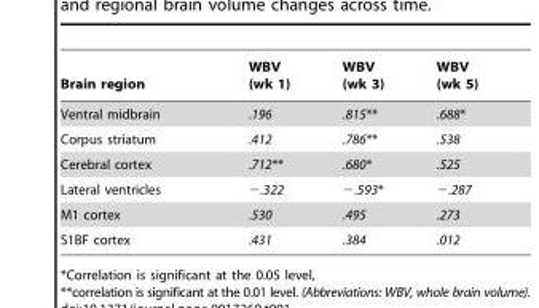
<table><thead><tr><td>Brain region</td><td>WBV (wk 1)</td><td>WBV (wk 3)</td><td>WBV (wk 5)</td></tr></thead><tbody><tr><td>Ventral midbrain</td><td>.196</td><td>.815**</td><td>.688*</td></tr><tr><td>Corpus striatum</td><td>.412</td><td>.786**</td><td>.538</td></tr><tr><td>Cerebral cortex</td><td>.712**</td><td>.680*</td><td>.525</td></tr><tr><td>Lateral ventricles</td><td>−.322</td><td>−.593*</td><td>−.287</td></tr><tr><td>M1 cortex</td><td>.530</td><td>.495</td><td>.273</td></tr><tr><td>S1BF cortex</td><td>.431</td><td>.384</td><td>.012</td></tr></tbody></table>